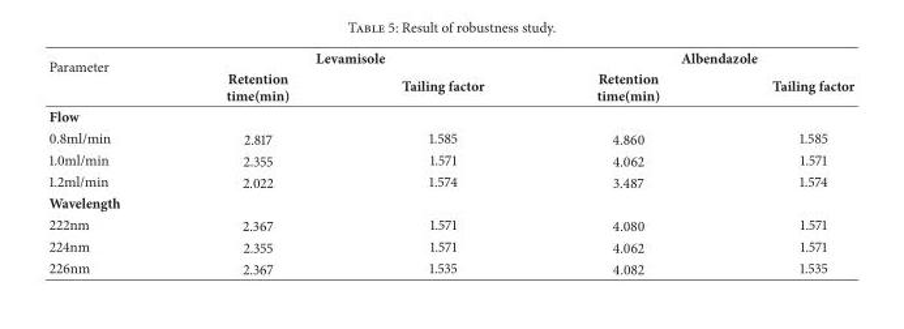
<table><thead><tr><td rowspan="2">Parameter</td><td colspan="2">Levamisole</td><td colspan="2">Albendazole</td></tr><tr><td>Retention time(min)</td><td>Tailing factor</td><td>Retention time(min)</td><td>Tailing factor</td></tr></thead><tbody><tr><td colspan="5">Flow</td></tr><tr><td>0.8ml/min</td><td>2.817</td><td>1.585</td><td>4.860</td><td>1.585</td></tr><tr><td>1.0ml/min</td><td>2.355</td><td>1.571</td><td>4.062</td><td>1.571</td></tr><tr><td>1.2ml/min</td><td>2.022</td><td>1.574</td><td>3.487</td><td>1.574</td></tr><tr><td colspan="5">Wavelength</td></tr><tr><td>222nm</td><td>2.367</td><td>1.571</td><td>4.080</td><td>1.571</td></tr><tr><td>224nm</td><td>2.355</td><td>1.571</td><td>4.062</td><td>1.571</td></tr><tr><td>226nm</td><td>2.367</td><td>1.535</td><td>4.082</td><td>1.535</td></tr></tbody></table>